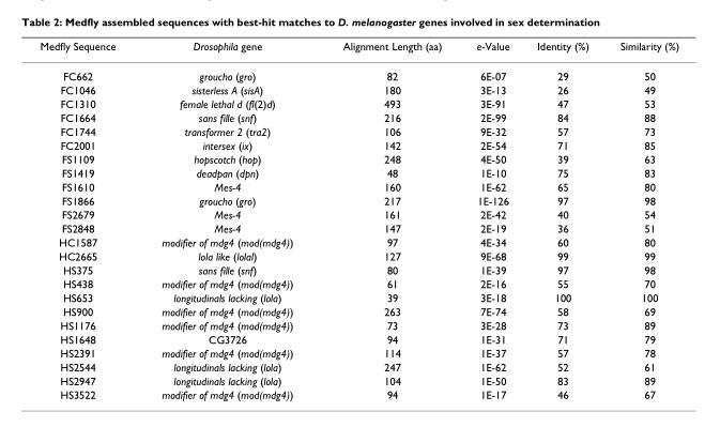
<table><thead><tr><td>Medfly Sequence</td><td>Drosophila gene</td><td>Alignment Length (aa)</td><td>e-Value</td><td>Identity (%)</td><td>Similarity (%)</td></tr></thead><tbody><tr><td>FC662</td><td>groucho (gro)</td><td>82</td><td>6E-07</td><td>29</td><td>50</td></tr><tr><td>FC1046</td><td>sisterless A (sisA)</td><td>180</td><td>3E-13</td><td>26</td><td>49</td></tr><tr><td>FC1310</td><td>female lethal d (fl(2)d)</td><td>493</td><td>3E-91</td><td>47</td><td>53</td></tr><tr><td>FC1664</td><td>sans fille (snf)</td><td>216</td><td>2E-99</td><td>84</td><td>88</td></tr><tr><td>FC1744</td><td>transformer 2 (tra2)</td><td>106</td><td>9E-32</td><td>57</td><td>73</td></tr><tr><td>FC2001</td><td>intersex (ix)</td><td>142</td><td>2E-54</td><td>71</td><td>85</td></tr><tr><td>FS1109</td><td>hopscotch (hop)</td><td>248</td><td>4E-50</td><td>39</td><td>63</td></tr><tr><td>FS1419</td><td>deadpan (dpn)</td><td>48</td><td>1E-10</td><td>75</td><td>83</td></tr><tr><td>FS1610</td><td>Mes-4</td><td>160</td><td>1E-62</td><td>65</td><td>80</td></tr><tr><td>FS1866</td><td>groucho (gro)</td><td>217</td><td>1E-126</td><td>97</td><td>98</td></tr><tr><td>FS2679</td><td>Mes-4</td><td>161</td><td>2E-42</td><td>40</td><td>54</td></tr><tr><td>FS2848</td><td>Mes-4</td><td>147</td><td>2E-19</td><td>36</td><td>51</td></tr><tr><td>HC1587</td><td>modifier of mdg4 (mod(mdg4))</td><td>97</td><td>4E-34</td><td>60</td><td>80</td></tr><tr><td>HC2665</td><td>lola like (lolal)</td><td>127</td><td>9E-68</td><td>99</td><td>99</td></tr><tr><td>HS375</td><td>sans fille (snf)</td><td>80</td><td>1E-39</td><td>97</td><td>98</td></tr><tr><td>HS438</td><td>modifier of mdg4 (mod(mdg4))</td><td>61</td><td>2E-16</td><td>55</td><td>70</td></tr><tr><td>HS653</td><td>longitudinals lacking (lola)</td><td>39</td><td>3E-18</td><td>100</td><td>100</td></tr><tr><td>HS900</td><td>modifier of mdg4 (mod(mdg4))</td><td>263</td><td>7E-74</td><td>58</td><td>69</td></tr><tr><td>HS1176</td><td>modifier of mdg4 (mod(mdg4))</td><td>73</td><td>3E-28</td><td>73</td><td>89</td></tr><tr><td>HS1648</td><td>CG3726</td><td>94</td><td>1E-31</td><td>71</td><td>79</td></tr><tr><td>HS2391</td><td>modifier of mdg4 (mod(mdg4))</td><td>114</td><td>1E-37</td><td>57</td><td>78</td></tr><tr><td>HS2544</td><td>longitudinals lacking (lola)</td><td>247</td><td>1E-62</td><td>52</td><td>61</td></tr><tr><td>HS2947</td><td>longitudinals lacking (lola)</td><td>104</td><td>1E-50</td><td>83</td><td>89</td></tr><tr><td>HS3522</td><td>modifier of mdg4 (mod(mdg4))</td><td>94</td><td>1E-17</td><td>46</td><td>67</td></tr></tbody></table>